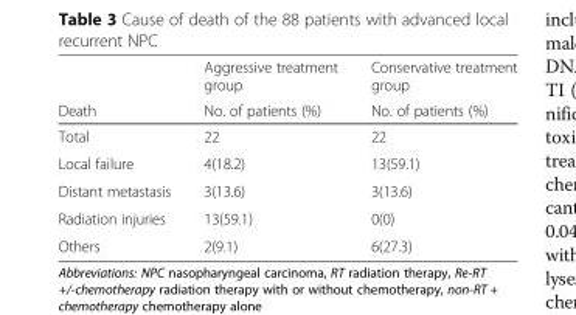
<table><thead><tr><td rowspan="2">Death</td><td rowspan="2">Aggressive treatment group No. of patients (%)</td><td rowspan="2">Conservative treatment group No. of patients (%)</td></tr><tr></tr></thead><tbody><tr><td>Total</td><td>22</td><td>22</td></tr><tr><td>Local failure</td><td>4(18.2)</td><td>13(59.1)</td></tr><tr><td>Distant metastasis</td><td>3(13.6)</td><td>3(13.6)</td></tr><tr><td>Radiation injuries</td><td>13(59.1)</td><td>0(0)</td></tr><tr><td>Others</td><td>2(9.1)</td><td>6(27.3)</td></tr></tbody></table>